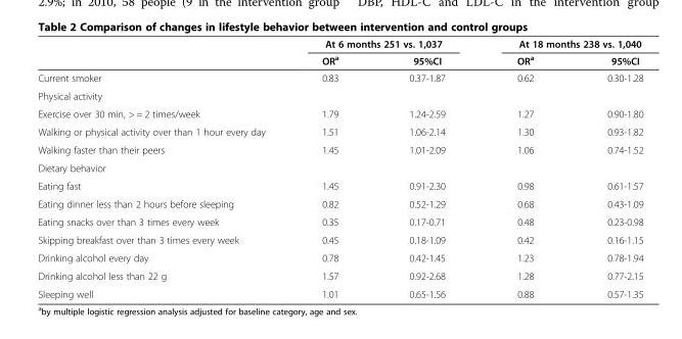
<table><thead><tr><td rowspan="2"></td><td colspan="2">At 6 months 251 vs. 1,037</td><td colspan="2">At 18 months 238 vs. 1,040</td></tr><tr><td>OR<sup>a</sup></td><td>95%CI</td><td>OR<sup>a</sup></td><td>95%CI</td></tr></thead><tbody><tr><td>Current smoker</td><td>0.83</td><td>0.37-1.87</td><td>0.62</td><td>0.30-1.28</td></tr><tr><td colspan="5">Physical activity</td></tr><tr><td>Exercise over 30 min, &gt; = 2 times/week</td><td>1.79</td><td>1.24-2.59</td><td>1.27</td><td>0.90-1.80</td></tr><tr><td>Walking or physical activity over than 1 hour every day</td><td>1.51</td><td>1.06-2.14</td><td>1.30</td><td>0.93-1.82</td></tr><tr><td>Walking faster than their peers</td><td>1.45</td><td>1.01-2.09</td><td>1.06</td><td>0.74-1.52</td></tr><tr><td colspan="5">Dietary behavior</td></tr><tr><td>Eating fast</td><td>1.45</td><td>0.91-2.30</td><td>0.98</td><td>0.61-1.57</td></tr><tr><td>Eating dinner less than 2 hours before sleeping</td><td>0.82</td><td>0.52-1.29</td><td>0.68</td><td>0.43-1.09</td></tr><tr><td>Eating snacks over than 3 times every week</td><td>0.35</td><td>0.17-0.71</td><td>0.48</td><td>0.23-0.98</td></tr><tr><td>Skipping breakfast over than 3 times every week</td><td>0.45</td><td>0.18-1.09</td><td>0.42</td><td>0.16-1.15</td></tr><tr><td>Drinking alcohol every day</td><td>0.78</td><td>0.42-1.45</td><td>1.23</td><td>0.78-1.94</td></tr><tr><td>Drinking alcohol less than 22 g</td><td>1.57</td><td>0.92-2.68</td><td>1.28</td><td>0.77-2.15</td></tr><tr><td>Sleeping well</td><td>1.01</td><td>0.65-1.56</td><td>0.88</td><td>0.57-1.35</td></tr></tbody></table>